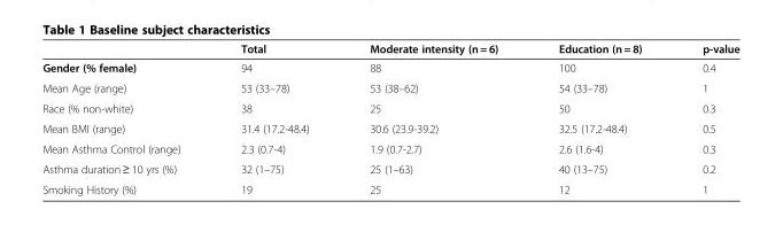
<table><thead><tr><td></td><td>Total</td><td>Moderate intensity (n = 6)</td><td>Education (n = 8)</td><td>p-value</td></tr></thead><tbody><tr><td>Gender (% female)</td><td>94</td><td>88</td><td>100</td><td>0.4</td></tr><tr><td>Mean Age (range)</td><td>53 (33–78)</td><td>53 (38–62)</td><td>54 (33–78)</td><td>1</td></tr><tr><td>Race (% non-white)</td><td>38</td><td>25</td><td>50</td><td>0.3</td></tr><tr><td>Mean BMI (range)</td><td>31.4 (17.2-48.4)</td><td>30.6 (23.9-39.2)</td><td>32.5 (17.2-48.4)</td><td>0.5</td></tr><tr><td>Mean Asthma Control (range)</td><td>2.3 (0.7-4)</td><td>1.9 (0.7-2.7)</td><td>2.6 (1.6-4)</td><td>0.3</td></tr><tr><td>Asthma duration ≥ 10 yrs (%)</td><td>32 (1–75)</td><td>25 (1–63)</td><td>40 (13–75)</td><td>0.2</td></tr><tr><td>Smoking History (%)</td><td>19</td><td>25</td><td>12</td><td>1</td></tr></tbody></table>